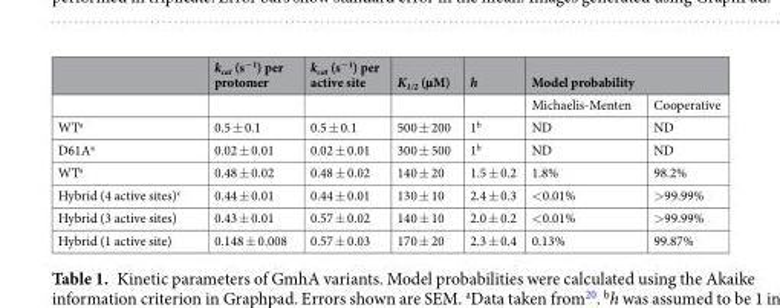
<table><thead><tr><td rowspan="2"></td><td rowspan="2">k<sub>cat</sub> (s<sup>−1</sup>) per protomer</td><td rowspan="2">k<sub>cat</sub> (s<sup>−1</sup>) per active site</td><td rowspan="2">K<sub>1/2</sub> (µM)</td><td rowspan="2">h</td><td colspan="2">Model probability</td></tr><tr><td>Michaelis-Menten</td><td>Cooperative</td></tr></thead><tbody><tr><td>WT<sup>a</sup></td><td>0.5 ± 0.1</td><td>0.5 ± 0.1</td><td>500 ± 200</td><td>1<sup>b</sup></td><td>ND</td><td>ND</td></tr><tr><td>D61A<sup>a</sup></td><td>0.02 ± 0.01</td><td>0.02 ± 0.01</td><td>300 ± 500</td><td>1<sup>b</sup></td><td>ND</td><td>ND</td></tr><tr><td>WT<sup>a</sup></td><td>0.48 ± 0.02</td><td>0.48 ± 0.02</td><td>140 ± 20</td><td>1.5 ± 0.2</td><td>1.8%</td><td>98.2%</td></tr><tr><td>Hybrid (4 active sites)<sup>c</sup></td><td>0.44 ± 0.01</td><td>0.44 ± 0.01</td><td>130 ± 10</td><td>2.4 ± 0.3</td><td>&lt;0.01%</td><td>&gt;99.99%</td></tr><tr><td>Hybrid (3 active sites)</td><td>0.43 ± 0.01</td><td>0.57 ± 0.02</td><td>140 ± 10</td><td>2.0 ± 0.2</td><td>&lt;0.01%</td><td>&gt;99.99%</td></tr><tr><td>Hybrid (1 active site)</td><td>0.148 ± 0.008</td><td>0.57 ± 0.03</td><td>170 ± 20</td><td>2.3 ± 0.4</td><td>0.13%</td><td>99.87%</td></tr></tbody></table>